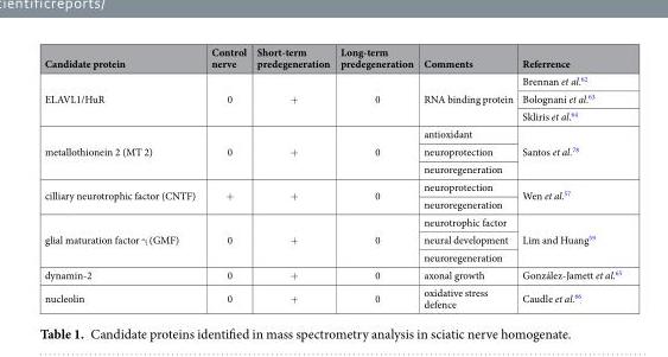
<table><thead><tr><td>Candidate protein</td><td>Control nerve</td><td>Short-term predegeneration</td><td>Long-term predegeneration</td><td>Comments</td><td>Referrence</td></tr></thead><tbody><tr><td rowspan="3">ELAVL1/HuR</td><td rowspan="3">0</td><td rowspan="3">+</td><td rowspan="3">0</td><td rowspan="3">RNA binding protein</td><td>Brennan et al.<sup>62</sup></td></tr><tr><td>Bolognani et al.<sup>63</sup></td></tr><tr><td>Skliris et al.<sup>64</sup></td></tr><tr><td rowspan="3">metallothionein 2 (MT 2)</td><td rowspan="3">0</td><td rowspan="3">+</td><td rowspan="3">0</td><td>antioxidant</td><td rowspan="3">Santos et al.<sup>78</sup></td></tr><tr><td>neuroprotection</td></tr><tr><td>neuroregeneration</td></tr><tr><td rowspan="2">cilliary neurotrophic factor (CNTF)</td><td rowspan="2">+</td><td rowspan="2">+</td><td rowspan="2">0</td><td>neuroprotection</td><td rowspan="2">Wen et al.<sup>57</sup></td></tr><tr><td>neuroregeneration</td></tr><tr><td rowspan="3">glial maturation factor γ (GMF)</td><td rowspan="3">0</td><td rowspan="3">+</td><td rowspan="3">0</td><td>neurotrophic factor</td><td rowspan="3">Lim and Huang<sup>59</sup></td></tr><tr><td>neural development</td></tr><tr><td>neuroregeneration</td></tr><tr><td>dynamin-2</td><td>0</td><td>+</td><td>0</td><td>axonal growth</td><td>González-Jamett et al.<sup>65</sup></td></tr><tr><td>nucleolin</td><td>0</td><td>+</td><td>0</td><td>oxidative stress defence</td><td>Caudle et al.<sup>66</sup></td></tr></tbody></table>